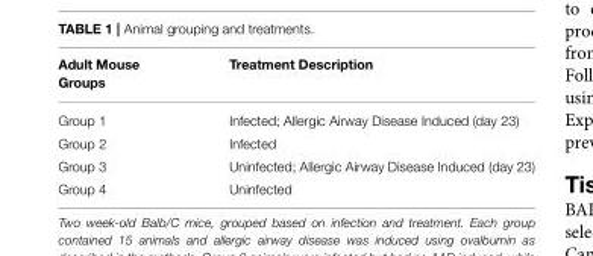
<table><thead><tr><td>Adult Mouse Groups</td><td>Treatment Description</td></tr></thead><tbody><tr><td>Group 1</td><td>Infected; Allergic Airway Disease Induced (day 23)</td></tr><tr><td>Group 2</td><td>Infected</td></tr><tr><td>Group 3</td><td>Uninfected; Allergic Airway Disease Induced (day 23)</td></tr><tr><td>Group 4</td><td>Uninfected</td></tr></tbody></table>